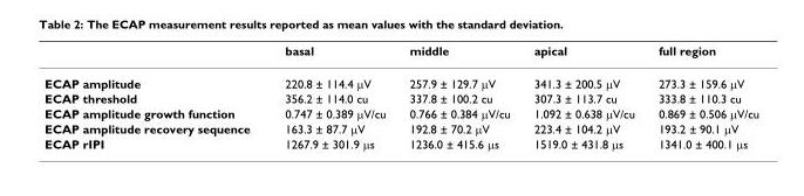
<table><thead><tr><td></td><td>basal</td><td>middle</td><td>apical</td><td>full region</td></tr></thead><tbody><tr><td>ECAP amplitude</td><td>220.8 ± 114.4 μV</td><td>257.9 ± 129.7 μV</td><td>341.3 ± 200.5 μV</td><td>273.3 ± 159.6 μV</td></tr><tr><td>ECAP threshold</td><td>356.2 ± 114.0 cu</td><td>337.8 ± 100.2 cu</td><td>307.3 ± 113.7 cu</td><td>333.8 ± 110.3 cu</td></tr><tr><td>ECAP amplitude growth function</td><td>0.747 ± 0.389 μV/cu</td><td>0.766 ± 0.384 μV/cu</td><td>1.092 ± 0.638 μV/cu</td><td>0.869 ± 0.506 μV/cu</td></tr><tr><td>ECAP amplitude recovery sequence</td><td>163.3 ± 87.7 μV</td><td>192.8 ± 70.2 μV</td><td>223.4 ± 104.2 μV</td><td>193.2 ± 90.1 μV</td></tr><tr><td>ECAP rIPI</td><td>1267.9 ± 301.9 μs</td><td>1236.0 ± 415.6 μs</td><td>1519.0 ± 431.8 μs</td><td>1341.0 ± 400.1 μs</td></tr></tbody></table>